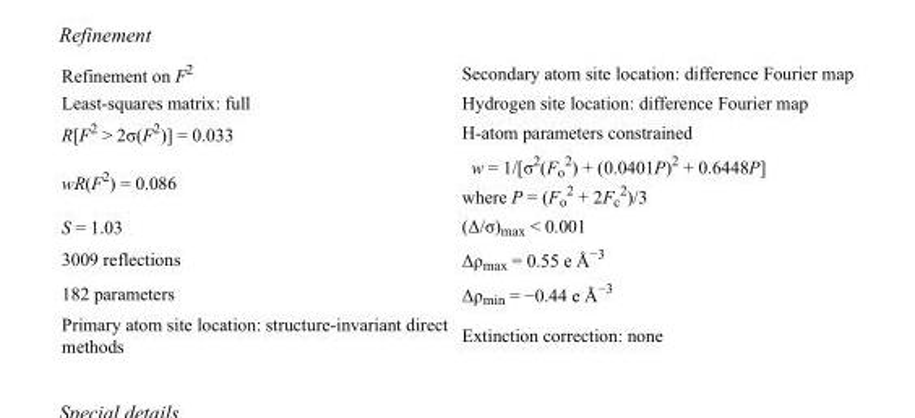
<table><tbody><tr><td>Refinement on F<sup>2</sup></td><td>Secondary atom site location: difference Fourier map</td></tr><tr><td>Least-squares matrix: full</td><td>Hydrogen site location: difference Fourier map</td></tr><tr><td>R[F<sup>2</sup> &gt; 2σ(F<sup>2</sup>)] = 0.033</td><td>H-atom parameters constrained</td></tr><tr><td>wR(F<sup>2</sup>) = 0.086</td><td>w = 1/[σ<sup>2</sup>(F<sub>o</sub> <sup>2</sup>) + (0.0401P)<sup>2</sup> + 0.6448P] where P = (F<sub>o</sub> <sup>2</sup> + 2F<sub>c</sub> <sup>2</sup>)/3</td></tr><tr><td>S = 1.03</td><td>(Δ/σ)<sub>max</sub> &lt; 0.001</td></tr><tr><td>3009 reflections</td><td>Δρ<sub>max</sub> = 0.55 e Å<sup>−3</sup></td></tr><tr><td>182 parameters</td><td>Δρ<sub>min</sub> = −0.44 e Å<sup>−3</sup></td></tr><tr><td>Primary atom site location: structure-invariant direct methods</td><td>Extinction correction: none</td></tr></tbody></table>